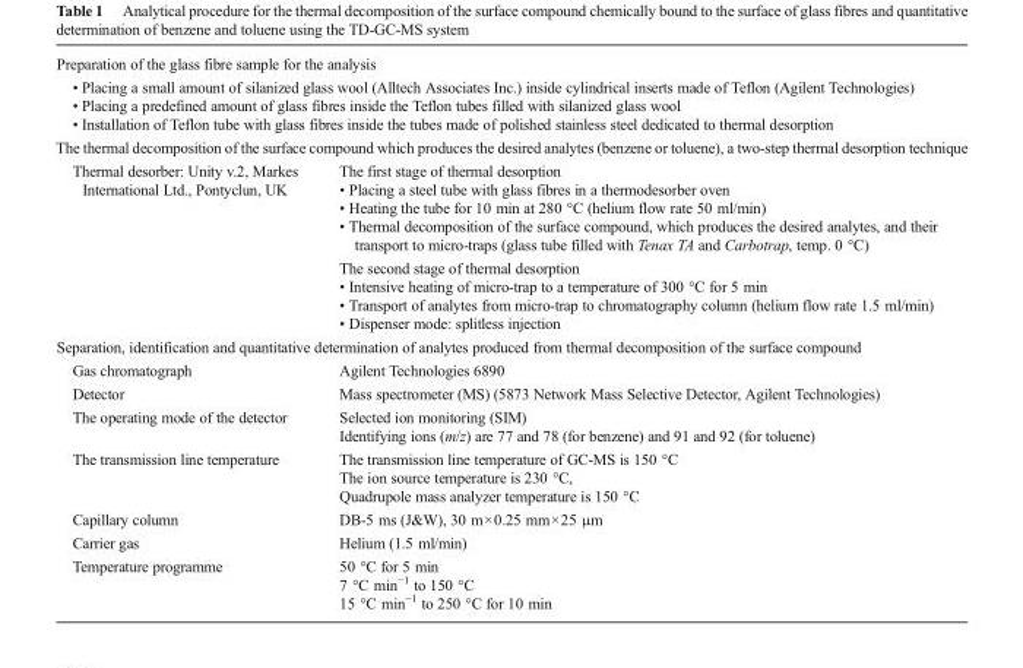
<table><tbody><tr><td colspan="2">Preparation of the glass fibre sample for the analysis</td></tr><tr><td colspan="2">• Placing a small amount of silanized glass wool (Alltech Associates Inc.) inside cylindrical inserts made of Teflon (Agilent Technologies) • Placing a predefined amount of glass fibres inside the Teflon tubes filled with silanized glass wool • Installation of Teflon tube with glass fibres inside the tubes made of polished stainless steel dedicated to thermal desorption</td></tr><tr><td colspan="2">The thermal decomposition of the surface compound which produces the desired analytes (benzene or toluene), a two-step thermal desorption technique</td></tr><tr><td rowspan="2">Thermal desorber: Unity v.2, Markes International Ltd., Pontyclun, UK</td><td>The first stage of thermal desorption • Placing a steel tube with glass fibres in a thermodesorber oven • Heating the tube for 10 min at 280 °C (helium flow rate 50 ml/min) • Thermal decomposition of the surface compound, which produces the desired analytes, and their transport to micro-traps (glass tube filled with Tenax TA and Carbotrap, temp. 0 °C)</td></tr><tr><td>The second stage of thermal desorption • Intensive heating of micro-trap to a temperature of 300 °C for 5 min • Transport of analytes from micro-trap to chromatography column (helium flow rate 1.5 ml/min) • Dispenser mode: splitless injection</td></tr><tr><td colspan="2">Separation, identification and quantitative determination of analytes produced from thermal decomposition of the surface compound</td></tr><tr><td>Gas chromatograph</td><td>Agilent Technologies 6890</td></tr><tr><td>Detector</td><td>Mass spectrometer (MS) (5873 Network Mass Selective Detector, Agilent Technologies)</td></tr><tr><td>The operating mode of the detector</td><td>Selected ion monitoring (SIM) Identifying ions (m/z) are 77 and 78 (for benzene) and 91 and 92 (for toluene)</td></tr><tr><td>The transmission line temperature</td><td>The transmission line temperature of GC-MS is 150 °C The ion source temperature is 230 °C, Quadrupole mass analyzer temperature is 150 °C</td></tr><tr><td>Capillary column</td><td>DB-5 ms (J&amp;W), 30 m×0.25 mm×25 μm</td></tr><tr><td>Carrier gas</td><td>Helium (1.5 ml/min)</td></tr><tr><td>Temperature programme</td><td>50 °C for 5 min 7 °C min<sup>−1</sup> to 150 °C 15 °C min<sup>−1</sup> to 250 °C for 10 min</td></tr></tbody></table>